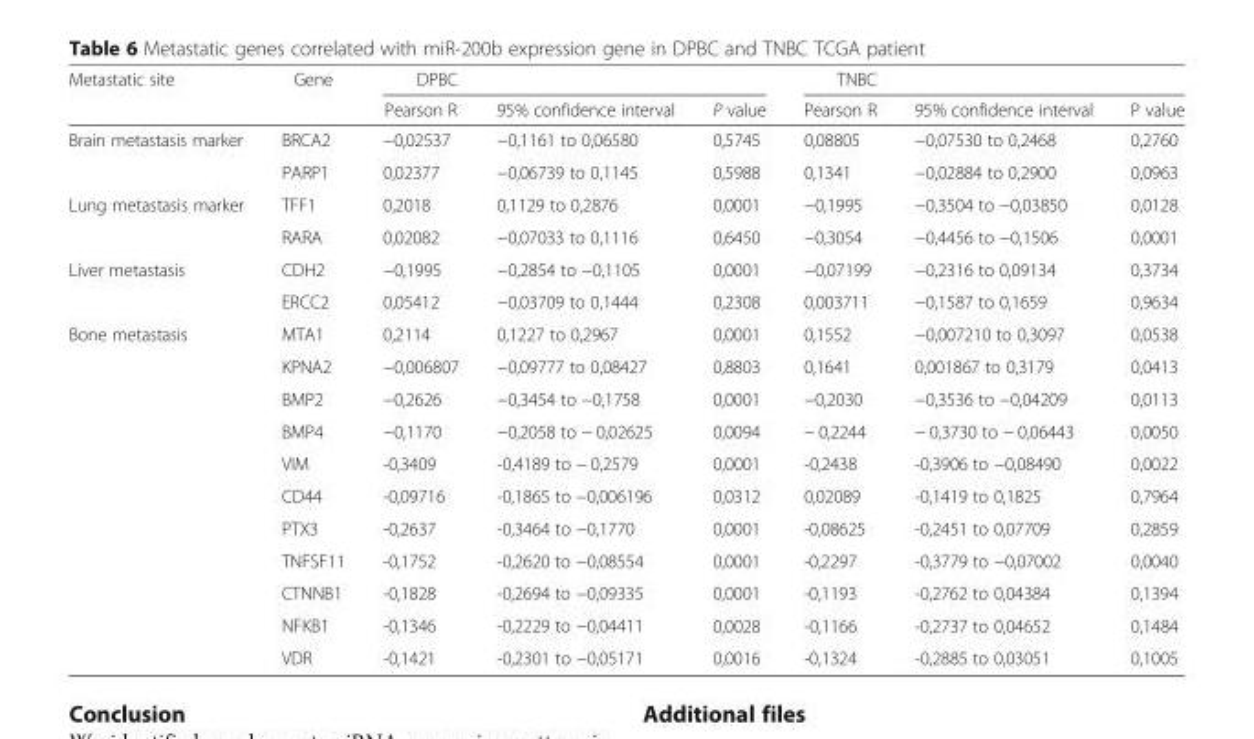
<table><thead><tr><td rowspan="2">Metastatic site</td><td rowspan="2">Gene</td><td colspan="3">DPBC</td><td colspan="3">TNBC</td></tr><tr><td>Pearson R</td><td>95% confidence interval</td><td>P value</td><td>Pearson R</td><td>95% confidence interval</td><td>P value</td></tr></thead><tbody><tr><td rowspan="2">Brain metastasis marker</td><td>BRCA2</td><td>−0,02537</td><td>−0,1161 to 0,06580</td><td>0,5745</td><td>0,08805</td><td>−0,07530 to 0,2468</td><td>0,2760</td></tr><tr><td>PARP1</td><td>0,02377</td><td>−0,06739 to 0,1145</td><td>0,5988</td><td>0,1341</td><td>−0,02884 to 0,2900</td><td>0,0963</td></tr><tr><td rowspan="2">Lung metastasis marker</td><td>TFF1</td><td>0,2018</td><td>0,1129 to 0,2876</td><td>0,0001</td><td>−0,1995</td><td>−0,3504 to −0,03850</td><td>0,0128</td></tr><tr><td>RARA</td><td>0,02082</td><td>−0,07033 to 0,1116</td><td>0,6450</td><td>−0,3054</td><td>−0,4456 to −0,1506</td><td>0,0001</td></tr><tr><td rowspan="2">Liver metastasis</td><td>CDH2</td><td>−0,1995</td><td>−0,2854 to −0,1105</td><td>0,0001</td><td>−0,07199</td><td>−0,2316 to 0,09134</td><td>0,3734</td></tr><tr><td>ERCC2</td><td>0,05412</td><td>−0,03709 to 0,1444</td><td>0,2308</td><td>0,003711</td><td>−0,1587 to 0,1659</td><td>0,9634</td></tr><tr><td rowspan="11">Bone metastasis</td><td>MTA1</td><td>0,2114</td><td>0,1227 to 0,2967</td><td>0,0001</td><td>0,1552</td><td>−0,007210 to 0,3097</td><td>0,0538</td></tr><tr><td>KPNA2</td><td>−0,006807</td><td>−0,09777 to 0,08427</td><td>0,8803</td><td>0,1641</td><td>0,001867 to 0,3179</td><td>0,0413</td></tr><tr><td>BMP2</td><td>−0,2626</td><td>−0,3454 to −0,1758</td><td>0,0001</td><td>−0,2030</td><td>−0,3536 to −0,04209</td><td>0,0113</td></tr><tr><td>BMP4</td><td>−0,1170</td><td>−0,2058 to − 0,02625</td><td>0,0094</td><td>− 0,2244</td><td>− 0,3730 to − 0,06443</td><td>0,0050</td></tr><tr><td>VIM</td><td>-0,3409</td><td>-0,4189 to − 0,2579</td><td>0,0001</td><td>-0,2438</td><td>-0,3906 to −0,08490</td><td>0,0022</td></tr><tr><td>CD44</td><td>-0,09716</td><td>-0,1865 to −0,006196</td><td>0,0312</td><td>0,02089</td><td>-0,1419 to 0,1825</td><td>0,7964</td></tr><tr><td>PTX3</td><td>-0,2637</td><td>-0,3464 to −0,1770</td><td>0,0001</td><td>-0,08625</td><td>-0,2451 to 0,07709</td><td>0,2859</td></tr><tr><td>TNFSF11</td><td>-0,1752</td><td>-0,2620 to −0,08554</td><td>0,0001</td><td>-0,2297</td><td>-0,3779 to −0,07002</td><td>0,0040</td></tr><tr><td>CTNNB1</td><td>-0,1828</td><td>-0,2694 to −0,09335</td><td>0,0001</td><td>-0,1193</td><td>-0,2762 to 0,04384</td><td>0,1394</td></tr><tr><td>NFKB1</td><td>-0,1346</td><td>-0,2229 to −0,04411</td><td>0,0028</td><td>-0,1166</td><td>-0,2737 to 0,04652</td><td>0,1484</td></tr><tr><td>VDR</td><td>-0,1421</td><td>-0,2301 to −0,05171</td><td>0,0016</td><td>-0,1324</td><td>-0,2885 to 0,03051</td><td>0,1005</td></tr></tbody></table>